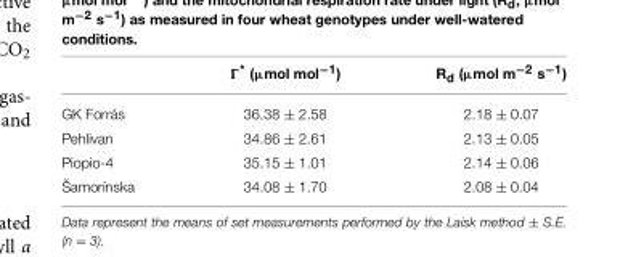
<table><thead><tr><td></td><td>Ŵ* (µmol mol−1)</td><td>R<sub>d</sub> (µmol m<sup>−2</sup> s<sup>−1</sup>)</td></tr></thead><tbody><tr><td>GK Forrás</td><td>36.38 ± 2.58</td><td>2.18 ± 0.07</td></tr><tr><td>Pehlivan</td><td>34.86 ± 2.61</td><td>2.13 ± 0.05</td></tr><tr><td>Piopio-4</td><td>35.15 ± 1.01</td><td>2.14 ± 0.06</td></tr><tr><td>Šamorínska</td><td>34.08 ± 1.70</td><td>2.08 ± 0.04</td></tr></tbody></table>